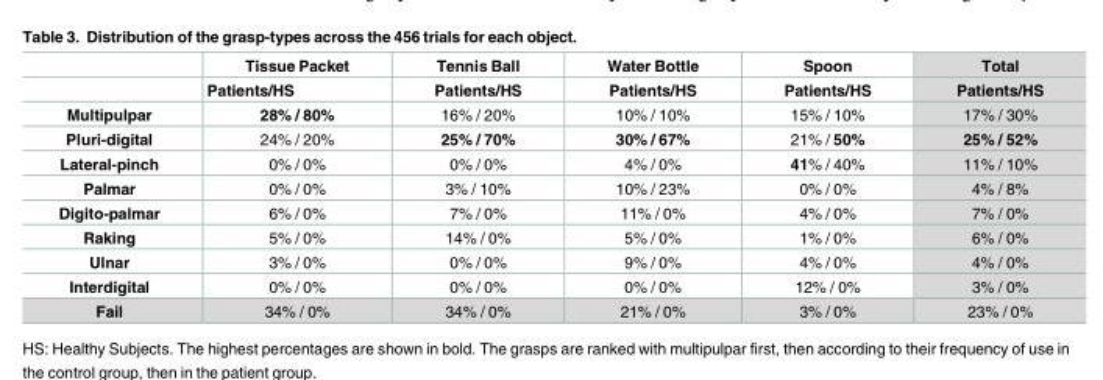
<table><thead><tr><td rowspan="2"></td><td rowspan="2">Tissue Packet Patients/HS</td><td rowspan="2">Tennis Ball Patients/HS</td><td rowspan="2">Water Bottle Patients/HS</td><td rowspan="2">Spoon Patients/HS</td><td rowspan="2">Total Patients/HS</td></tr><tr></tr></thead><tbody><tr><td>Multipulpar</td><td>28% / 80%</td><td>16% / 20%</td><td>10% / 10%</td><td>15% / 10%</td><td>17% / 30%</td></tr><tr><td>Pluri-digital</td><td>24% / 20%</td><td>25% / 70%</td><td>30% / 67%</td><td>21% / 50%</td><td>25% / 52%</td></tr><tr><td>Lateral-pinch</td><td>0% / 0%</td><td>0% / 0%</td><td>4% / 0%</td><td>41% / 40%</td><td>11% / 10%</td></tr><tr><td>Palmar</td><td>0% / 0%</td><td>3% / 10%</td><td>10% / 23%</td><td>0% / 0%</td><td>4% / 8%</td></tr><tr><td>Digito-palmar</td><td>6% / 0%</td><td>7% / 0%</td><td>11% / 0%</td><td>4% / 0%</td><td>7% / 0%</td></tr><tr><td>Raking</td><td>5% / 0%</td><td>14% / 0%</td><td>5% / 0%</td><td>1% / 0%</td><td>6% / 0%</td></tr><tr><td>Ulnar</td><td>3% / 0%</td><td>0% / 0%</td><td>9% / 0%</td><td>4% / 0%</td><td>4% / 0%</td></tr><tr><td>Interdigital</td><td>0% / 0%</td><td>0% / 0%</td><td>0% / 0%</td><td>12% / 0%</td><td>3% / 0%</td></tr><tr><td>Fail</td><td>34% / 0%</td><td>34% / 0%</td><td>21% / 0%</td><td>3% / 0%</td><td>23% / 0%</td></tr></tbody></table>